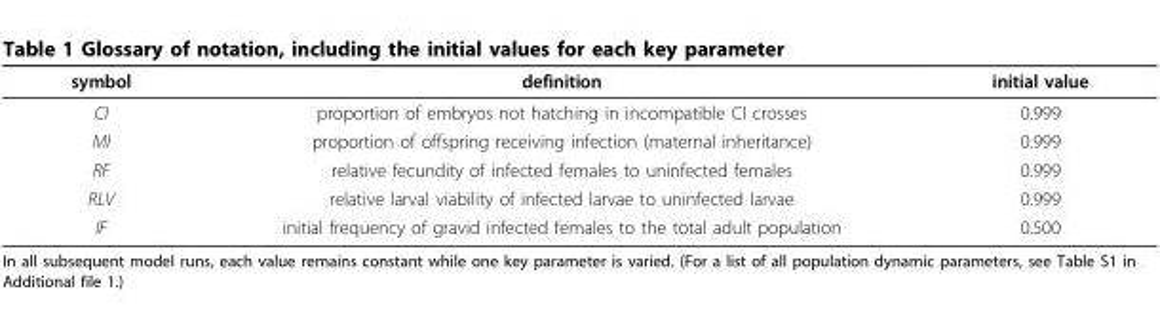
<table><thead><tr><td>symbol</td><td>definition</td><td>initial value</td></tr></thead><tbody><tr><td>CI</td><td>proportion of embryos not hatching in incompatible CI crosses</td><td>0.999</td></tr><tr><td>MI</td><td>proportion of offspring receiving infection (maternal inheritance)</td><td>0.999</td></tr><tr><td>RF</td><td>relative fecundity of infected females to uninfected females</td><td>0.999</td></tr><tr><td>RLV</td><td>relative larval viability of infected larvae to uninfected larvae</td><td>0.999</td></tr><tr><td>IF</td><td>initial frequency of gravid infected females to the total adult population</td><td>0.500</td></tr></tbody></table>